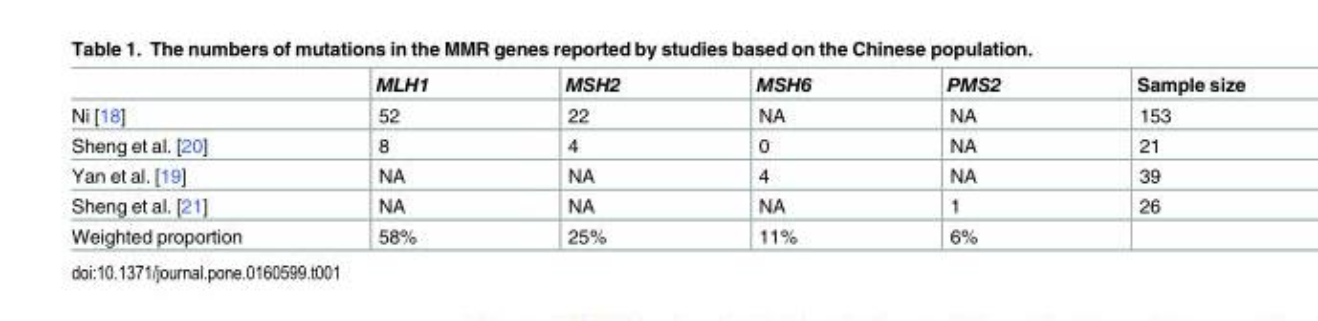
<table><thead><tr><td></td><td>MLH1</td><td>MSH2</td><td>MSH6</td><td>PMS2</td><td>Sample size</td></tr></thead><tbody><tr><td>Ni [18]</td><td>52</td><td>22</td><td>NA</td><td>NA</td><td>153</td></tr><tr><td>Sheng et al. [20]</td><td>8</td><td>4</td><td>0</td><td>NA</td><td>21</td></tr><tr><td>Yan et al. [19]</td><td>NA</td><td>NA</td><td>4</td><td>NA</td><td>39</td></tr><tr><td>Sheng et al. [21]</td><td>NA</td><td>NA</td><td>NA</td><td>1</td><td>26</td></tr><tr><td>Weighted proportion</td><td>58%</td><td>25%</td><td>11%</td><td>6%</td><td></td></tr></tbody></table>